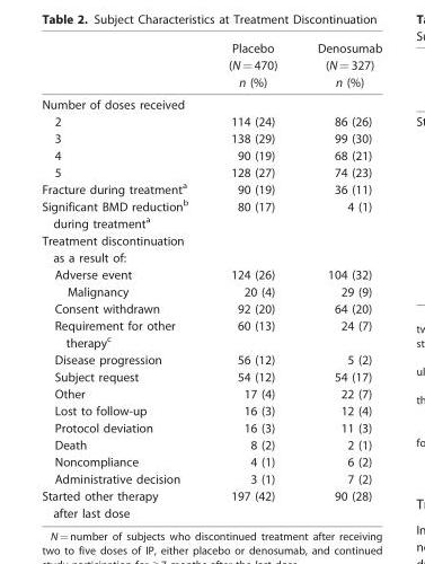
<table><thead><tr><td></td><td>Placebo (N = 470) n (%)</td><td>Denosumab (N = 327) n (%)</td></tr></thead><tbody><tr><td colspan="3">Number of doses received</td></tr><tr><td>2</td><td>114 (24)</td><td>86 (26)</td></tr><tr><td>3</td><td>138 (29)</td><td>99 (30)</td></tr><tr><td>4</td><td>90 (19)</td><td>68 (21)</td></tr><tr><td>5</td><td>128 (27)</td><td>74 (23)</td></tr><tr><td>Fracture during treatment<sup>a</sup></td><td>90 (19)</td><td>36 (11)</td></tr><tr><td>Significant BMD reduction<sup>b</sup> during treatment<sup>a</sup></td><td>80 (17)</td><td>4 (1)</td></tr><tr><td colspan="3">Treatment discontinuation as a result of:</td></tr><tr><td>Adverse event</td><td>124 (26)</td><td>104 (32)</td></tr><tr><td>Malignancy</td><td>20 (4)</td><td>29 (9)</td></tr><tr><td>Consent withdrawn</td><td>92 (20)</td><td>64 (20)</td></tr><tr><td>Requirement for other therapy<sup>c</sup></td><td>60 (13)</td><td>24 (7)</td></tr><tr><td>Disease progression</td><td>56 (12)</td><td>5 (2)</td></tr><tr><td>Subject request</td><td>54 (12)</td><td>54 (17)</td></tr><tr><td>Other</td><td>17 (4)</td><td>22 (7)</td></tr><tr><td>Lost to follow-up</td><td>16 (3)</td><td>12 (4)</td></tr><tr><td>Protocol deviation</td><td>16 (3)</td><td>11 (3)</td></tr><tr><td>Death</td><td>8 (2)</td><td>2 (1)</td></tr><tr><td>Noncompliance</td><td>4 (1)</td><td>6 (2)</td></tr><tr><td>Administrative decision</td><td>3 (1)</td><td>7 (2)</td></tr><tr><td>Started other therapy after last dose</td><td>197 (42)</td><td>90 (28)</td></tr></tbody></table>